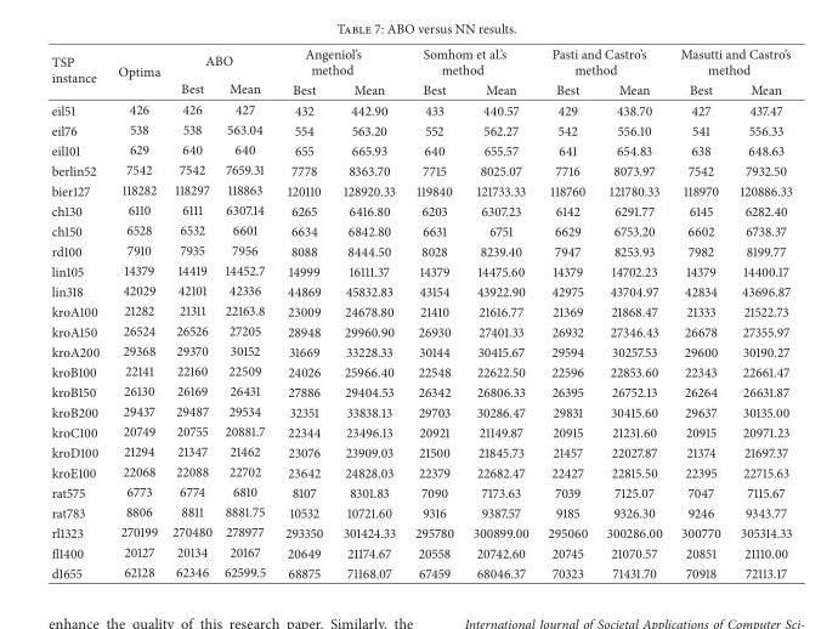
<table><thead><tr><td rowspan="2">TSP instance</td><td rowspan="2">Optima</td><td colspan="2">ABO</td><td colspan="2">Angeniol’s method</td><td colspan="2">Somhom et al.’s method</td><td colspan="2">Pasti and Castro’s method</td><td colspan="2">Masutti and Castro’s method</td></tr><tr><td>Best</td><td>Mean</td><td>Best</td><td>Mean</td><td>Best</td><td>Mean</td><td>Best</td><td>Mean</td><td>Best</td><td>Mean</td></tr></thead><tbody><tr><td>eil51</td><td>426</td><td>426</td><td>427</td><td>432</td><td>442.90</td><td>433</td><td>440.57</td><td>429</td><td>438.70</td><td>427</td><td>437.47</td></tr><tr><td>eil76</td><td>538</td><td>538</td><td>563.04</td><td>554</td><td>563.20</td><td>552</td><td>562.27</td><td>542</td><td>556.10</td><td>541</td><td>556.33</td></tr><tr><td>eil101</td><td>629</td><td>640</td><td>640</td><td>655</td><td>665.93</td><td>640</td><td>655.57</td><td>641</td><td>654.83</td><td>638</td><td>648.63</td></tr><tr><td>berlin52</td><td>7542</td><td>7542</td><td>7659.31</td><td>7778</td><td>8363.70</td><td>7715</td><td>8025.07</td><td>7716</td><td>8073.97</td><td>7542</td><td>7932.50</td></tr><tr><td>bier127</td><td>118282</td><td>118297</td><td>118863</td><td>120110</td><td>128920.33</td><td>119840</td><td>121733.33</td><td>118760</td><td>121780.33</td><td>118970</td><td>120886.33</td></tr><tr><td>ch130</td><td>6110</td><td>6111</td><td>6307.14</td><td>6265</td><td>6416.80</td><td>6203</td><td>6307.23</td><td>6142</td><td>6291.77</td><td>6145</td><td>6282.40</td></tr><tr><td>ch150</td><td>6528</td><td>6532</td><td>6601</td><td>6634</td><td>6842.80</td><td>6631</td><td>6751</td><td>6629</td><td>6753.20</td><td>6602</td><td>6738.37</td></tr><tr><td>rd100</td><td>7910</td><td>7935</td><td>7956</td><td>8088</td><td>8444.50</td><td>8028</td><td>8239.40</td><td>7947</td><td>8253.93</td><td>7982</td><td>8199.77</td></tr><tr><td>lin105</td><td>14379</td><td>14419</td><td>14452.7</td><td>14999</td><td>16111.37</td><td>14379</td><td>14475.60</td><td>14379</td><td>14702.23</td><td>14379</td><td>14400.17</td></tr><tr><td>lin318</td><td>42029</td><td>42101</td><td>42336</td><td>44869</td><td>45832.83</td><td>43154</td><td>43922.90</td><td>42975</td><td>43704.97</td><td>42834</td><td>43696.87</td></tr><tr><td>kroA100</td><td>21282</td><td>21311</td><td>22163.8</td><td>23009</td><td>24678.80</td><td>21410</td><td>21616.77</td><td>21369</td><td>21868.47</td><td>21333</td><td>21522.73</td></tr><tr><td>kroA150</td><td>26524</td><td>26526</td><td>27205</td><td>28948</td><td>29960.90</td><td>26930</td><td>27401.33</td><td>26932</td><td>27346.43</td><td>26678</td><td>27355.97</td></tr><tr><td>kroA200</td><td>29368</td><td>29370</td><td>30152</td><td>31669</td><td>33228.33</td><td>30144</td><td>30415.67</td><td>29594</td><td>30257.53</td><td>29600</td><td>30190.27</td></tr><tr><td>kroB100</td><td>22141</td><td>22160</td><td>22509</td><td>24026</td><td>25966.40</td><td>22548</td><td>22622.50</td><td>22596</td><td>22853.60</td><td>22343</td><td>22661.47</td></tr><tr><td>kroB150</td><td>26130</td><td>26169</td><td>26431</td><td>27886</td><td>29404.53</td><td>26342</td><td>26806.33</td><td>26395</td><td>26752.13</td><td>26264</td><td>26631.87</td></tr><tr><td>kroB200</td><td>29437</td><td>29487</td><td>29534</td><td>32351</td><td>33838.13</td><td>29703</td><td>30286.47</td><td>29831</td><td>30415.60</td><td>29637</td><td>30135.00</td></tr><tr><td>kroC100</td><td>20749</td><td>20755</td><td>20881.7</td><td>22344</td><td>23496.13</td><td>20921</td><td>21149.87</td><td>20915</td><td>21231.60</td><td>20915</td><td>20971.23</td></tr><tr><td>kroD100</td><td>21294</td><td>21347</td><td>21462</td><td>23076</td><td>23909.03</td><td>21500</td><td>21845.73</td><td>21457</td><td>22027.87</td><td>21374</td><td>21697.37</td></tr><tr><td>kroE100</td><td>22068</td><td>22088</td><td>22702</td><td>23642</td><td>24828.03</td><td>22379</td><td>22682.47</td><td>22427</td><td>22815.50</td><td>22395</td><td>22715.63</td></tr><tr><td>rat575</td><td>6773</td><td>6774</td><td>6810</td><td>8107</td><td>8301.83</td><td>7090</td><td>7173.63</td><td>7039</td><td>7125.07</td><td>7047</td><td>7115.67</td></tr><tr><td>rat783</td><td>8806</td><td>8811</td><td>8881.75</td><td>10532</td><td>10721.60</td><td>9316</td><td>9387.57</td><td>9185</td><td>9326.30</td><td>9246</td><td>9343.77</td></tr><tr><td>rl1323</td><td>270199</td><td>270480</td><td>278977</td><td>293350</td><td>301424.33</td><td>295780</td><td>300899.00</td><td>295060</td><td>300286.00</td><td>300770</td><td>305314.33</td></tr><tr><td>fl1400</td><td>20127</td><td>20134</td><td>20167</td><td>20649</td><td>21174.67</td><td>20558</td><td>20742.60</td><td>20745</td><td>21070.57</td><td>20851</td><td>21110.00</td></tr><tr><td>d1655</td><td>62128</td><td>62346</td><td>62599.5</td><td>68875</td><td>71168.07</td><td>67459</td><td>68046.37</td><td>70323</td><td>71431.70</td><td>70918</td><td>72113.17</td></tr></tbody></table>